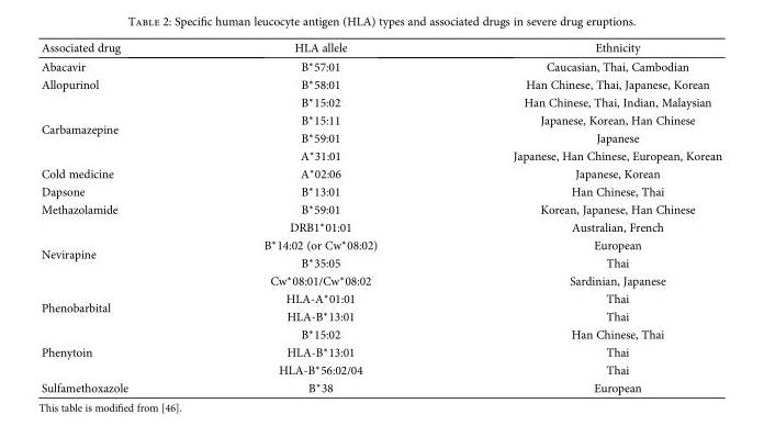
<table><thead><tr><td>Associated drug</td><td>HLA allele</td><td>Ethnicity</td></tr></thead><tbody><tr><td>Abacavir</td><td>B∗57:01</td><td>Caucasian, Thai, Cambodian</td></tr><tr><td>Allopurinol</td><td>B∗58:01</td><td>Han Chinese, Thai, Japanese, Korean</td></tr><tr><td rowspan="4">Carbamazepine</td><td>B∗15:02</td><td>Han Chinese, Thai, Indian, Malaysian</td></tr><tr><td>B∗15:11</td><td>Japanese, Korean, Han Chinese</td></tr><tr><td>B∗59:01</td><td>Japanese</td></tr><tr><td>A∗31:01</td><td>Japanese, Han Chinese, European, Korean</td></tr><tr><td>Cold medicine</td><td>A∗02:06</td><td>Japanese, Korean</td></tr><tr><td>Dapsone</td><td>B∗13:01</td><td>Han Chinese, Thai</td></tr><tr><td>Methazolamide</td><td>B∗59:01</td><td>Korean, Japanese, Han Chinese</td></tr><tr><td rowspan="4">Nevirapine</td><td>DRB1∗01:01</td><td>Australian, French</td></tr><tr><td>B∗14:02 (or Cw∗08:02)</td><td>European</td></tr><tr><td>B∗35:05</td><td>Thai</td></tr><tr><td>Cw∗08:01/Cw∗08:02</td><td>Sardinian, Japanese</td></tr><tr><td rowspan="2">Phenobarbital</td><td>HLA-A∗01:01</td><td>Thai</td></tr><tr><td>HLA-B∗13:01</td><td>Thai</td></tr><tr><td rowspan="3">Phenytoin</td><td>B∗15:02</td><td>Han Chinese, Thai</td></tr><tr><td>HLA-B∗13:01</td><td>Thai</td></tr><tr><td>HLA-B∗56:02/04</td><td>Thai</td></tr><tr><td>Sulfamethoxazole</td><td>B∗38</td><td>European</td></tr></tbody></table>